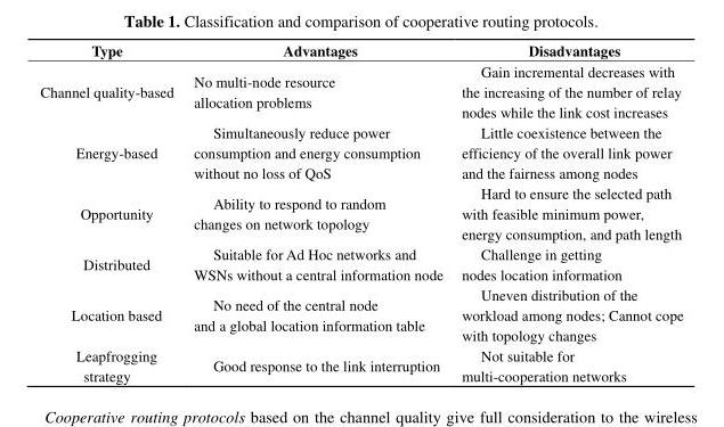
<table><thead><tr><td>Type</td><td>Advantages</td><td>Disadvantages</td></tr></thead><tbody><tr><td>Channel quality-based</td><td>No multi-node resource allocation problems</td><td>Gain incremental decreases with the increasing of the number of relay nodes while the link cost increases</td></tr><tr><td>Energy-based</td><td>Simultaneously reduce power consumption and energy consumption without no loss of QoS</td><td>Little coexistence between the efficiency of the overall link power and the fairness among nodes</td></tr><tr><td>Opportunity</td><td>Ability to respond to random changes on network topology</td><td>Hard to ensure the selected path with feasible minimum power, energy consumption, and path length</td></tr><tr><td>Distributed</td><td>Suitable for Ad Hoc networks and WSNs without a central information node</td><td>Challenge in getting nodes location information</td></tr><tr><td>Location based</td><td>No need of the central node and a global location information table</td><td>Uneven distribution of the workload among nodes; Cannot cope with topology changes</td></tr><tr><td>Leapfrogging strategy</td><td>Good response to the link interruption</td><td>Not suitable for multi-cooperation networks</td></tr></tbody></table>